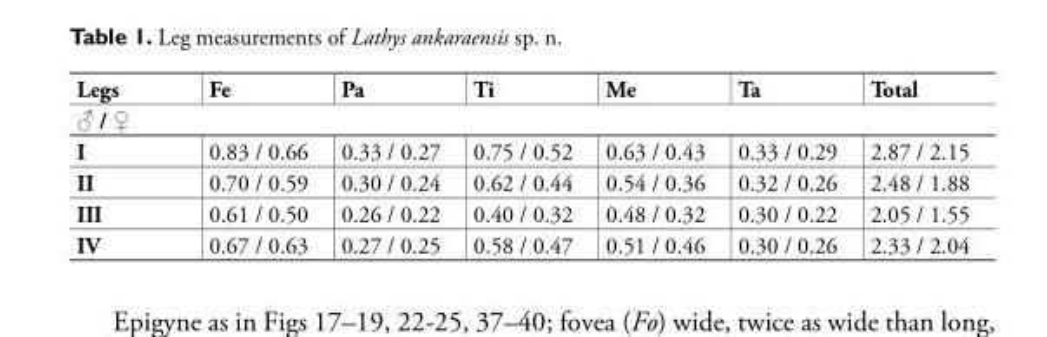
<table><thead><tr><td>Legs</td><td>Fe</td><td>Pa</td><td>Ti</td><td>Me</td><td>Ta</td><td>Total</td></tr><tr><td colspan="7">♂ / ♀</td></tr></thead><tbody><tr><td>I</td><td>0.83 / 0.66</td><td>0.33 / 0.27</td><td>0.75 / 0.52</td><td>0.63 / 0.43</td><td>0.33 / 0.29</td><td>2.87 / 2.15</td></tr><tr><td>II</td><td>0.70 / 0.59</td><td>0.30 / 0.24</td><td>0.62 / 0.44</td><td>0.54 / 0.36</td><td>0.32 / 0.26</td><td>2.48 / 1.88</td></tr><tr><td>III</td><td>0.61 / 0.50</td><td>0.26 / 0.22</td><td>0.40 / 0.32</td><td>0.48 / 0.32</td><td>0.30 / 0.22</td><td>2.05 / 1.55</td></tr><tr><td>IV</td><td>0.67 / 0.63</td><td>0.27 / 0.25</td><td>0.58 / 0.47</td><td>0.51 / 0.46</td><td>0.30 / 0.26</td><td>2.33 / 2.04</td></tr></tbody></table>